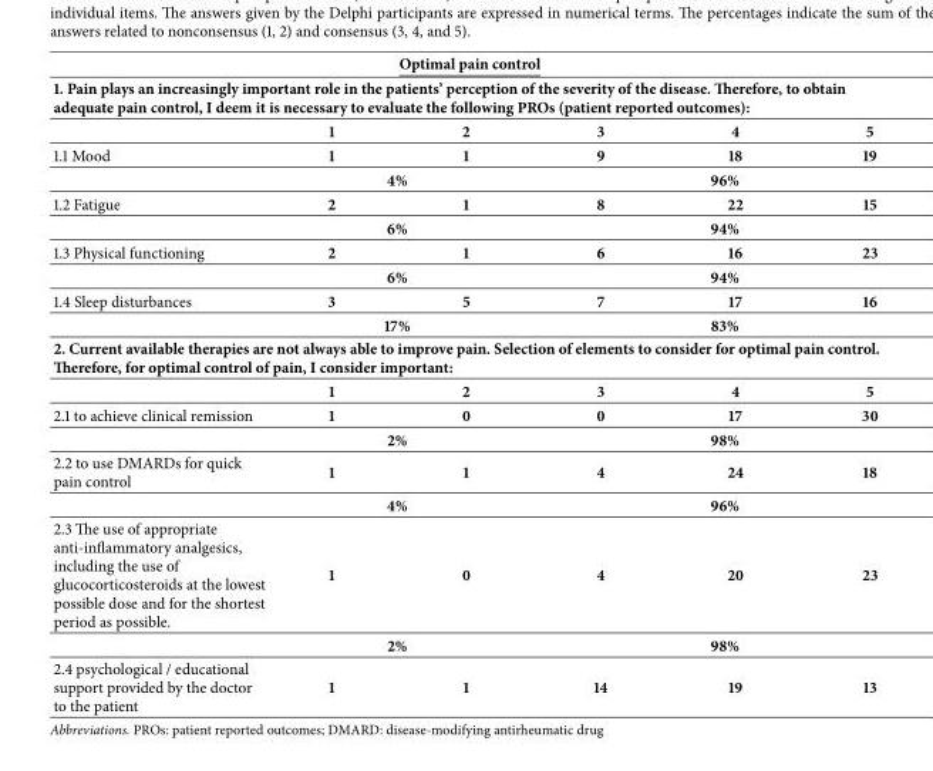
<table><thead><tr><td rowspan="2" colspan="6">Optimal pain control 1. Pain plays an increasingly important role in the patients’ perception of the severity of the disease. Terefore, to obtain adequate pain control, I deem it is necessary to evaluate the following PROs (patient reported outcomes):</td></tr><tr></tr><tr><td></td><td>1</td><td>2</td><td>3</td><td>4</td><td>5</td></tr></thead><tbody><tr><td rowspan="2">1.1 Mood</td><td>1</td><td>1</td><td>9</td><td>18</td><td>19</td></tr><tr><td colspan="2">4%</td><td colspan="3">96%</td></tr><tr><td rowspan="2">1.2 Fatigue</td><td>2</td><td>1</td><td>8</td><td>22</td><td>15</td></tr><tr><td colspan="2">6%</td><td colspan="3">94%</td></tr><tr><td rowspan="2">1.3 Physical functioning</td><td>2</td><td>1</td><td>6</td><td>16</td><td>23</td></tr><tr><td colspan="2">6%</td><td colspan="3">94%</td></tr><tr><td rowspan="2">1.4 Sleep disturbances</td><td>3</td><td>5</td><td>7</td><td>17</td><td>16</td></tr><tr><td colspan="2">17%</td><td colspan="3">83%</td></tr><tr><td colspan="6">2. Current available therapies are not always able to improve pain. Selection of elements to consider for optimal pain control. Terefore, for optimal control of pain, I consider important:</td></tr><tr><td></td><td>1</td><td>2</td><td>3</td><td>4</td><td>5</td></tr><tr><td rowspan="2">2.1 to achieve clinical remission</td><td>1</td><td>0</td><td>0</td><td>17</td><td>30</td></tr><tr><td colspan="2">2%</td><td colspan="3">98%</td></tr><tr><td rowspan="2">2.2 to use DMARDs for quick pain control</td><td>1</td><td>1</td><td>4</td><td>24</td><td>18</td></tr><tr><td colspan="2">4%</td><td colspan="3">96%</td></tr><tr><td rowspan="2">2.3 The use of appropriate anti-inflammatory analgesics, including the use of glucocorticosteroids at the lowest possible dose and for the shortest period as possible.</td><td>1</td><td>0</td><td>4</td><td>20</td><td>23</td></tr><tr><td colspan="2">2%</td><td colspan="3">98%</td></tr><tr><td>2.4 psychological / educational support provided by the doctor to the patient</td><td>1</td><td>1</td><td>14</td><td>19</td><td>13</td></tr></tbody></table>